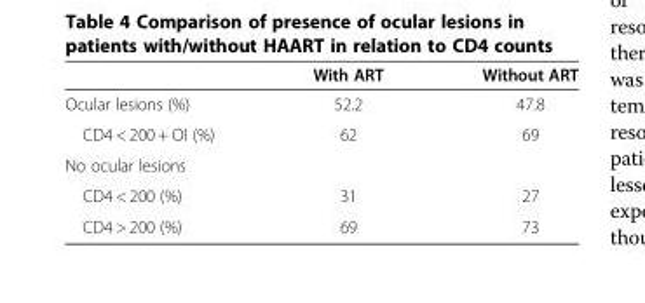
<table><thead><tr><td></td><td>With ART</td><td>Without ART</td></tr></thead><tbody><tr><td>Ocular lesions (%)</td><td>52.2</td><td>47.8</td></tr><tr><td>CD4 &lt; 200 + OI (%)</td><td>62</td><td>69</td></tr><tr><td colspan="3">No ocular lesions</td></tr><tr><td>CD4 &lt; 200 (%)</td><td>31</td><td>27</td></tr><tr><td>CD4 &gt; 200 (%)</td><td>69</td><td>73</td></tr></tbody></table>